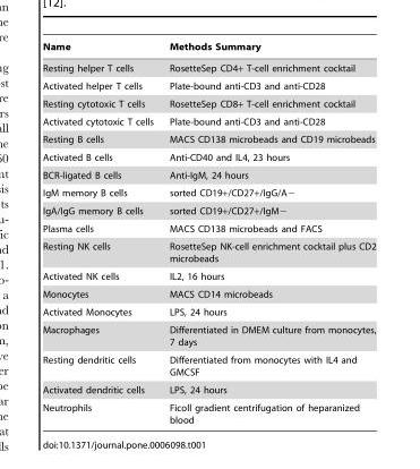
<table><thead><tr><td>Name</td><td>Methods Summary</td></tr></thead><tbody><tr><td>Resting helper T cells</td><td>RosetteSep CD4+ T-cell enrichment cocktail</td></tr><tr><td>Activated helper T cells</td><td>Plate-bound anti-CD3 and anti-CD28</td></tr><tr><td>Resting cytotoxic T cells</td><td>RosetteSep CD8+ T-cell enrichment cocktail</td></tr><tr><td>Activated cytotoxic T cells</td><td>Plate-bound anti-CD3 and anti-CD28</td></tr><tr><td>Resting B cells</td><td>MACS CD138 microbeads and CD19 microbeads</td></tr><tr><td>Activated B cells</td><td>Anti-CD40 and IL4, 23 hours</td></tr><tr><td>BCR-ligated B cells</td><td>Anti-IgM, 24 hours</td></tr><tr><td>IgM memory B cells</td><td>sorted CD19+/CD27+/IgG/A−</td></tr><tr><td>IgA/IgG memory B cells</td><td>sorted CD19+/CD27+/IgM−</td></tr><tr><td>Plasma cells</td><td>MACS CD138 microbeads and FACS</td></tr><tr><td>Resting NK cells</td><td>RosetteSep NK-cell enrichment cocktail plus CD2 microbeads</td></tr><tr><td>Activated NK cells</td><td>IL2, 16 hours</td></tr><tr><td>Monocytes</td><td>MACS CD14 microbeads</td></tr><tr><td>Activated Monocytes</td><td>LPS, 24 hours</td></tr><tr><td>Macrophages</td><td>Differentiated in DMEM culture from monocytes, 7 days</td></tr><tr><td>Resting dendritic cells</td><td>Differentiated from monocytes with IL4 and GMCSF</td></tr><tr><td>Activated dendritic cells</td><td>LPS, 24 hours</td></tr><tr><td>Neutrophils</td><td>Ficoll gradient centrifugation of heparanized blood</td></tr></tbody></table>